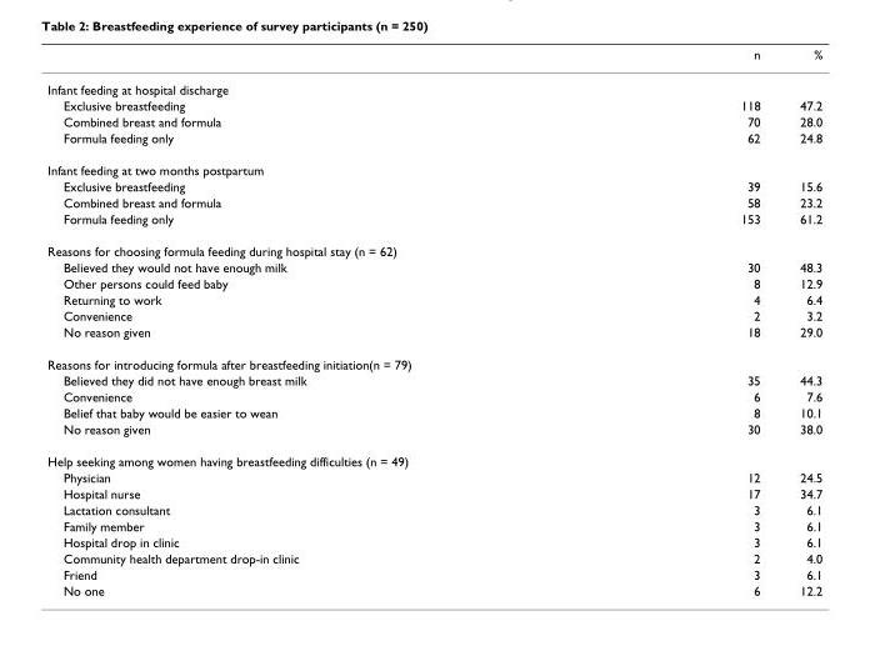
<table><thead><tr><td></td><td>n</td><td>%</td></tr></thead><tbody><tr><td colspan="3">Infant feeding at hospital discharge</td></tr><tr><td>Exclusive breastfeeding</td><td>118</td><td>47.2</td></tr><tr><td>Combined breast and formula</td><td>70</td><td>28.0</td></tr><tr><td>Formula feeding only</td><td>62</td><td>24.8</td></tr><tr><td colspan="3">Infant feeding at two months postpartum</td></tr><tr><td>Exclusive breastfeeding</td><td>39</td><td>15.6</td></tr><tr><td>Combined breast and formula</td><td>58</td><td>23.2</td></tr><tr><td>Formula feeding only</td><td>153</td><td>61.2</td></tr><tr><td colspan="3">Reasons for choosing formula feeding during hospital stay (n = 62)</td></tr><tr><td>Believed they would not have enough milk</td><td>30</td><td>48.3</td></tr><tr><td>Other persons could feed baby</td><td>8</td><td>12.9</td></tr><tr><td>Returning to work</td><td>4</td><td>6.4</td></tr><tr><td>Convenience</td><td>2</td><td>3.2</td></tr><tr><td>No reason given</td><td>18</td><td>29.0</td></tr><tr><td colspan="3">Reasons for introducing formula after breastfeeding initiation(n = 79)</td></tr><tr><td>Believed they did not have enough breast milk</td><td>35</td><td>44.3</td></tr><tr><td>Convenience</td><td>6</td><td>7.6</td></tr><tr><td>Belief that baby would be easier to wean</td><td>8</td><td>10.1</td></tr><tr><td>No reason given</td><td>30</td><td>38.0</td></tr><tr><td colspan="3">Help seeking among women having breastfeeding difficulties (n = 49)</td></tr><tr><td>Physician</td><td>12</td><td>24.5</td></tr><tr><td>Hospital nurse</td><td>17</td><td>34.7</td></tr><tr><td>Lactation consultant</td><td>3</td><td>6.1</td></tr><tr><td>Family member</td><td>3</td><td>6.1</td></tr><tr><td>Hospital drop in clinic</td><td>3</td><td>6.1</td></tr><tr><td>Community health department drop-in clinic</td><td>2</td><td>4.0</td></tr><tr><td>Friend</td><td>3</td><td>6.1</td></tr><tr><td>No one</td><td>6</td><td>12.2</td></tr></tbody></table>